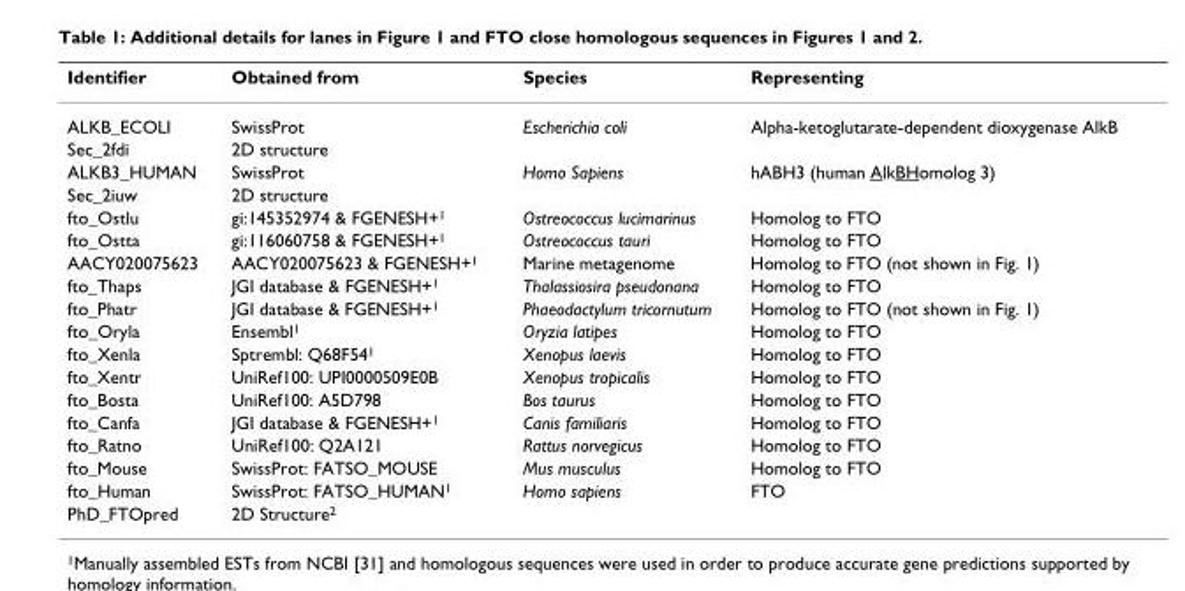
<table><thead><tr><td>Identifier</td><td>Obtained from</td><td>Species</td><td>Representing</td></tr></thead><tbody><tr><td>ALKB_ECOLI</td><td>SwissProt</td><td>Escherichia coli</td><td>Alpha-ketoglutarate-dependent dioxygenase AlkB</td></tr><tr><td>Sec_2fdi</td><td>2D structure</td><td></td><td></td></tr><tr><td>ALKB3_HUMAN</td><td>SwissProt</td><td>Homo Sapiens</td><td>hABH3 (human AlkBHomolog 3)</td></tr><tr><td>Sec_2iuw</td><td>2D structure</td><td></td><td></td></tr><tr><td>fto_Ostlu</td><td>gi:145352974 &amp; FGENESH+<sup>1</sup></td><td>Ostreococcus lucimarinus</td><td>Homolog to FTO</td></tr><tr><td>fto_Ostta</td><td>gi:116060758 &amp; FGENESH+<sup>1</sup></td><td>Ostreococcus tauri</td><td>Homolog to FTO</td></tr><tr><td>AACY020075623</td><td>AACY020075623 &amp; FGENESH+<sup>1</sup></td><td>Marine metagenome</td><td>Homolog to FTO (not shown in Fig. 1)</td></tr><tr><td>fto_Thaps</td><td>JGI database &amp; FGENESH+<sup>1</sup></td><td>Thalassiosira pseudonana</td><td>Homolog to FTO</td></tr><tr><td>fto_Phatr</td><td>JGI database &amp; FGENESH+<sup>1</sup></td><td>Phaeodactylum tricornutum</td><td>Homolog to FTO (not shown in Fig. 1)</td></tr><tr><td>fto_Oryla</td><td>Ensembl<sup>1</sup></td><td>Oryzia latipes</td><td>Homolog to FTO</td></tr><tr><td>fto_Xenla</td><td>Sptrembl: Q68F54<sup>1</sup></td><td>Xenopus laevis</td><td>Homolog to FTO</td></tr><tr><td>fto_Xentr</td><td>UniRef100: UPI0000509E0B</td><td>Xenopus tropicalis</td><td>Homolog to FTO</td></tr><tr><td>fto_Bosta</td><td>UniRef100: A5D798</td><td>Bos taurus</td><td>Homolog to FTO</td></tr><tr><td>fto_Canfa</td><td>JGI database &amp; FGENESH+<sup>1</sup></td><td>Canis familiaris</td><td>Homolog to FTO</td></tr><tr><td>fto_Ratno</td><td>UniRef100: Q2A121</td><td>Rattus norvegicus</td><td>Homolog to FTO</td></tr><tr><td>fto_Mouse</td><td>SwissProt: FATSO_MOUSE</td><td>Mus musculus</td><td>Homolog to FTO</td></tr><tr><td>fto_Human</td><td>SwissProt: FATSO_HUMAN<sup>1</sup></td><td>Homo sapiens</td><td>FTO</td></tr><tr><td>PhD_FTOpred</td><td>2D Structure<sup>2</sup></td><td></td><td></td></tr></tbody></table>